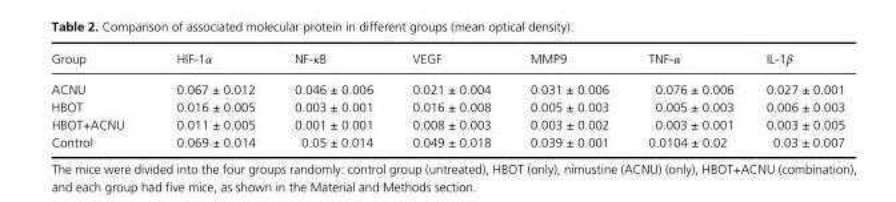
<table><thead><tr><td>Group</td><td>HIF- 1α</td><td>NF- κB</td><td>VEGF</td><td>MMP9</td><td>TNF- α</td><td>IL- 1β</td></tr></thead><tbody><tr><td>ACNU</td><td>0.067 ± 0.012</td><td>0.046 ± 0.006</td><td>0.021 ± 0.004</td><td>0.031 ± 0.006</td><td>0.076 ± 0.006</td><td>0.027 ± 0.001</td></tr><tr><td>HBOT</td><td>0.016 ± 0.005</td><td>0.003 ± 0.001</td><td>0.016 ± 0.008</td><td>0.005 ± 0.003</td><td>0.005 ± 0.003</td><td>0.006 ± 0.003</td></tr><tr><td>HBOT+ACNU</td><td>0.011 ± 0.005</td><td>0.001 ± 0.001</td><td>0.008 ± 0.003</td><td>0.003 ± 0.002</td><td>0.003 ± 0.001</td><td>0.003 ± 0.005</td></tr><tr><td>Control</td><td>0.069 ± 0.014</td><td>0.05 ± 0.014</td><td>0.049 ± 0.018</td><td>0.039 ± 0.001</td><td>0.0104 ± 0.02</td><td>0.03 ± 0.007</td></tr></tbody></table>